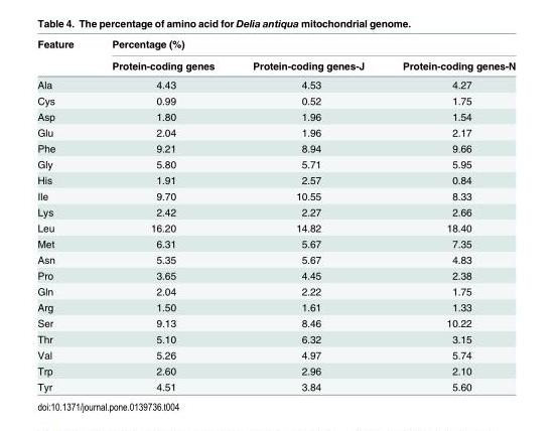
<table><thead><tr><td rowspan="2">Feature</td><td colspan="3">Percentage (%)</td></tr><tr><td>Protein-coding genes</td><td>Protein-coding genes-J</td><td>Protein-coding genes-N</td></tr></thead><tbody><tr><td>Ala</td><td>4.43</td><td>4.53</td><td>4.27</td></tr><tr><td>Cys</td><td>0.99</td><td>0.52</td><td>1.75</td></tr><tr><td>Asp</td><td>1.80</td><td>1.96</td><td>1.54</td></tr><tr><td>Glu</td><td>2.04</td><td>1.96</td><td>2.17</td></tr><tr><td>Phe</td><td>9.21</td><td>8.94</td><td>9.66</td></tr><tr><td>Gly</td><td>5.80</td><td>5.71</td><td>5.95</td></tr><tr><td>His</td><td>1.91</td><td>2.57</td><td>0.84</td></tr><tr><td>Ile</td><td>9.70</td><td>10.55</td><td>8.33</td></tr><tr><td>Lys</td><td>2.42</td><td>2.27</td><td>2.66</td></tr><tr><td>Leu</td><td>16.20</td><td>14.82</td><td>18.40</td></tr><tr><td>Met</td><td>6.31</td><td>5.67</td><td>7.35</td></tr><tr><td>Asn</td><td>5.35</td><td>5.67</td><td>4.83</td></tr><tr><td>Pro</td><td>3.65</td><td>4.45</td><td>2.38</td></tr><tr><td>Gln</td><td>2.04</td><td>2.22</td><td>1.75</td></tr><tr><td>Arg</td><td>1.50</td><td>1.61</td><td>1.33</td></tr><tr><td>Ser</td><td>9.13</td><td>8.46</td><td>10.22</td></tr><tr><td>Thr</td><td>5.10</td><td>6.32</td><td>3.15</td></tr><tr><td>Val</td><td>5.26</td><td>4.97</td><td>5.74</td></tr><tr><td>Trp</td><td>2.60</td><td>2.96</td><td>2.10</td></tr><tr><td>Tyr</td><td>4.51</td><td>3.84</td><td>5.60</td></tr></tbody></table>